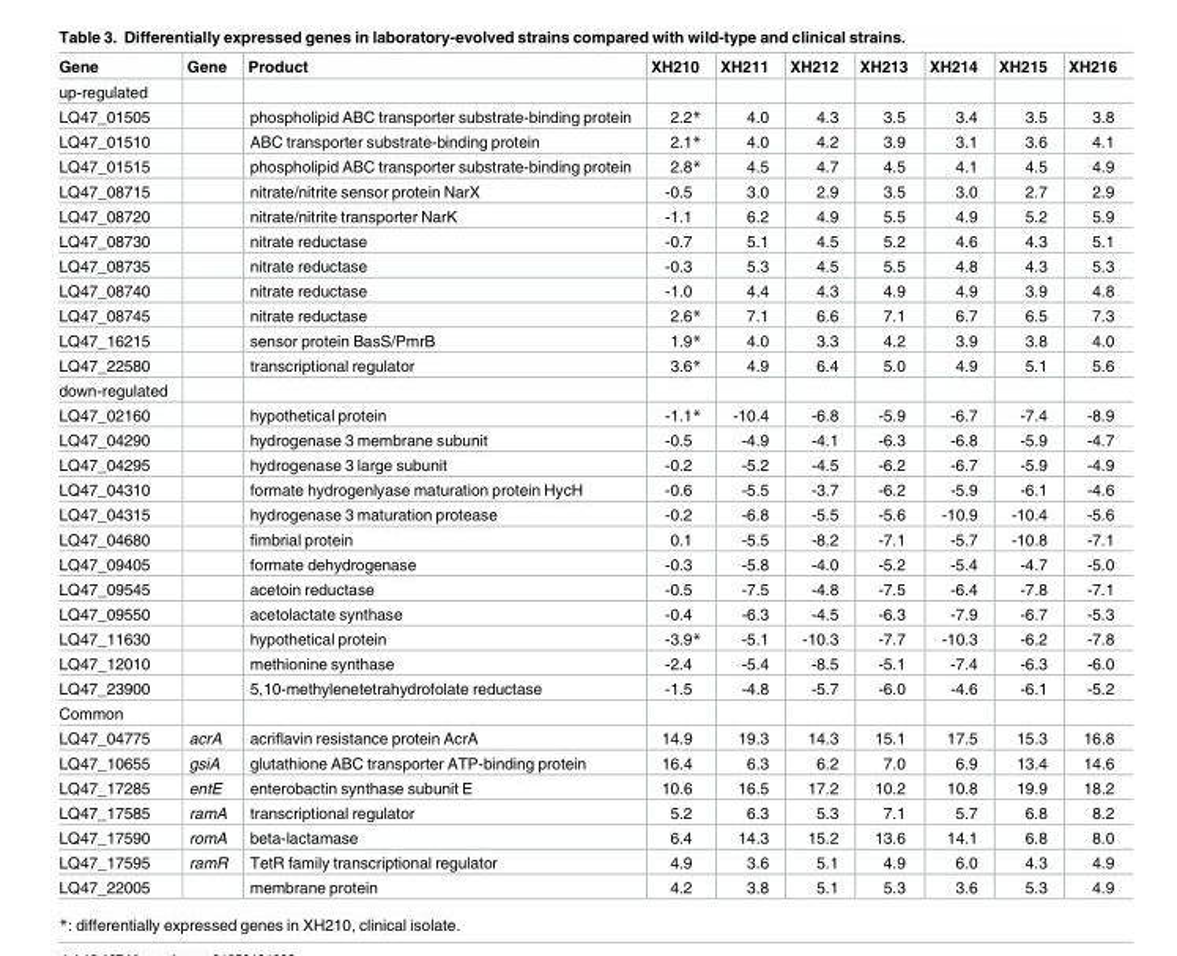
<table><thead><tr><td>Gene</td><td>Gene</td><td>Product</td><td>XH210</td><td>XH211</td><td>XH212</td><td>XH213</td><td>XH214</td><td>XH215</td><td>XH216</td></tr></thead><tbody><tr><td colspan="10">up-regulated</td></tr><tr><td>LQ47_01505</td><td></td><td>phospholipid ABC transporter substrate-binding protein</td><td>2.2*</td><td>4.0</td><td>4.3</td><td>3.5</td><td>3.4</td><td>3.5</td><td>3.8</td></tr><tr><td>LQ47_01510</td><td></td><td>ABC transporter substrate-binding protein</td><td>2.1*</td><td>4.0</td><td>4.2</td><td>3.9</td><td>3.1</td><td>3.6</td><td>4.1</td></tr><tr><td>LQ47_01515</td><td></td><td>phospholipid ABC transporter substrate-binding protein</td><td>2.8*</td><td>4.5</td><td>4.7</td><td>4.5</td><td>4.1</td><td>4.5</td><td>4.9</td></tr><tr><td>LQ47_08715</td><td></td><td>nitrate/nitrite sensor protein NarX</td><td>-0.5</td><td>3.0</td><td>2.9</td><td>3.5</td><td>3.0</td><td>2.7</td><td>2.9</td></tr><tr><td>LQ47_08720</td><td></td><td>nitrate/nitrite transporter NarK</td><td>-1.1</td><td>6.2</td><td>4.9</td><td>5.5</td><td>4.9</td><td>5.2</td><td>5.9</td></tr><tr><td>LQ47_08730</td><td></td><td>nitrate reductase</td><td>-0.7</td><td>5.1</td><td>4.5</td><td>5.2</td><td>4.6</td><td>4.3</td><td>5.1</td></tr><tr><td>LQ47_08735</td><td></td><td>nitrate reductase</td><td>-0.3</td><td>5.3</td><td>4.5</td><td>5.5</td><td>4.8</td><td>4.3</td><td>5.3</td></tr><tr><td>LQ47_08740</td><td></td><td>nitrate reductase</td><td>-1.0</td><td>4.4</td><td>4.3</td><td>4.9</td><td>4.9</td><td>3.9</td><td>4.8</td></tr><tr><td>LQ47_08745</td><td></td><td>nitrate reductase</td><td>2.6*</td><td>7.1</td><td>6.6</td><td>7.1</td><td>6.7</td><td>6.5</td><td>7.3</td></tr><tr><td>LQ47_16215</td><td></td><td>sensor protein BasS/PmrB</td><td>1.9*</td><td>4.0</td><td>3.3</td><td>4.2</td><td>3.9</td><td>3.8</td><td>4.0</td></tr><tr><td>LQ47_22580</td><td></td><td>transcriptional regulator</td><td>3.6*</td><td>4.9</td><td>6.4</td><td>5.0</td><td>4.9</td><td>5.1</td><td>5.6</td></tr><tr><td colspan="10">down-regulated</td></tr><tr><td>LQ47_02160</td><td></td><td>hypothetical protein</td><td>-1.1*</td><td>-10.4</td><td>-6.8</td><td>-5.9</td><td>-6.7</td><td>-7.4</td><td>-8.9</td></tr><tr><td>LQ47_04290</td><td></td><td>hydrogenase 3 membrane subunit</td><td>-0.5</td><td>-4.9</td><td>-4.1</td><td>-6.3</td><td>-6.8</td><td>-5.9</td><td>-4.7</td></tr><tr><td>LQ47_04295</td><td></td><td>hydrogenase 3 large subunit</td><td>-0.2</td><td>-5.2</td><td>-4.5</td><td>-6.2</td><td>-6.7</td><td>-5.9</td><td>-4.9</td></tr><tr><td>LQ47_04310</td><td></td><td>formate hydrogenlyase maturation protein HycH</td><td>-0.6</td><td>-5.5</td><td>-3.7</td><td>-6.2</td><td>-5.9</td><td>-6.1</td><td>-4.6</td></tr><tr><td>LQ47_04315</td><td></td><td>hydrogenase 3 maturation protease</td><td>-0.2</td><td>-6.8</td><td>-5.5</td><td>-5.6</td><td>-10.9</td><td>-10.4</td><td>-5.6</td></tr><tr><td>LQ47_04680</td><td></td><td>fimbrial protein</td><td>0.1</td><td>-5.5</td><td>-8.2</td><td>-7.1</td><td>-5.7</td><td>-10.8</td><td>-7.1</td></tr><tr><td>LQ47_09405</td><td></td><td>formate dehydrogenase</td><td>-0.3</td><td>-5.8</td><td>-4.0</td><td>-5.2</td><td>-5.4</td><td>-4.7</td><td>-5.0</td></tr><tr><td>LQ47_09545</td><td></td><td>acetoin reductase</td><td>-0.5</td><td>-7.5</td><td>-4.8</td><td>-7.5</td><td>-6.4</td><td>-7.8</td><td>-7.1</td></tr><tr><td>LQ47_09550</td><td></td><td>acetolactate synthase</td><td>-0.4</td><td>-6.3</td><td>-4.5</td><td>-6.3</td><td>-7.9</td><td>-6.7</td><td>-5.3</td></tr><tr><td>LQ47_11630</td><td></td><td>hypothetical protein</td><td>-3.9*</td><td>-5.1</td><td>-10.3</td><td>-7.7</td><td>-10.3</td><td>-6.2</td><td>-7.8</td></tr><tr><td>LQ47_12010</td><td></td><td>methionine synthase</td><td>-2.4</td><td>-5.4</td><td>-8.5</td><td>-5.1</td><td>-7.4</td><td>-6.3</td><td>-6.0</td></tr><tr><td>LQ47_23900</td><td></td><td>5,10-methylenetetrahydrofolate reductase</td><td>-1.5</td><td>-4.8</td><td>-5.7</td><td>-6.0</td><td>-4.6</td><td>-6.1</td><td>-5.2</td></tr><tr><td colspan="10">Common</td></tr><tr><td>LQ47_04775</td><td>acrA</td><td>acriflavin resistance protein AcrA</td><td>14.9</td><td>19.3</td><td>14.3</td><td>15.1</td><td>17.5</td><td>15.3</td><td>16.8</td></tr><tr><td>LQ47_10655</td><td>gsiA</td><td>glutathione ABC transporter ATP-binding protein</td><td>16.4</td><td>6.3</td><td>6.2</td><td>7.0</td><td>6.9</td><td>13.4</td><td>14.6</td></tr><tr><td>LQ47_17285</td><td>entE</td><td>enterobactin synthase subunit E</td><td>10.6</td><td>16.5</td><td>17.2</td><td>10.2</td><td>10.8</td><td>19.9</td><td>18.2</td></tr><tr><td>LQ47_17585</td><td>ramA</td><td>transcriptional regulator</td><td>5.2</td><td>6.3</td><td>5.3</td><td>7.1</td><td>5.7</td><td>6.8</td><td>8.2</td></tr><tr><td>LQ47_17590</td><td>romA</td><td>beta-lactamase</td><td>6.4</td><td>14.3</td><td>15.2</td><td>13.6</td><td>14.1</td><td>6.8</td><td>8.0</td></tr><tr><td>LQ47_17595</td><td>ramR</td><td>TetR family transcriptional regulator</td><td>4.9</td><td>3.6</td><td>5.1</td><td>4.9</td><td>6.0</td><td>4.3</td><td>4.9</td></tr><tr><td>LQ47_22005</td><td></td><td>membrane protein</td><td>4.2</td><td>3.8</td><td>5.1</td><td>5.3</td><td>3.6</td><td>5.3</td><td>4.9</td></tr></tbody></table>